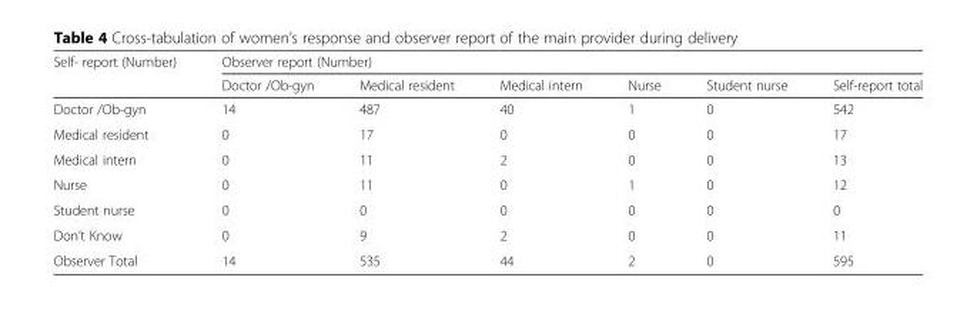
<table><thead><tr><td rowspan="2">Self- report (Number)</td><td colspan="6">Observer report (Number)</td></tr><tr><td>Doctor /Ob-gyn</td><td>Medical resident</td><td>Medical intern</td><td>Nurse</td><td>Student nurse</td><td>Self-report total</td></tr></thead><tbody><tr><td>Doctor /Ob-gyn</td><td>14</td><td>487</td><td>40</td><td>1</td><td>0</td><td>542</td></tr><tr><td>Medical resident</td><td>0</td><td>17</td><td>0</td><td>0</td><td>0</td><td>17</td></tr><tr><td>Medical intern</td><td>0</td><td>11</td><td>2</td><td>0</td><td>0</td><td>13</td></tr><tr><td>Nurse</td><td>0</td><td>11</td><td>0</td><td>1</td><td>0</td><td>12</td></tr><tr><td>Student nurse</td><td>0</td><td>0</td><td>0</td><td>0</td><td>0</td><td>0</td></tr><tr><td>Don’t Know</td><td>0</td><td>9</td><td>2</td><td>0</td><td>0</td><td>11</td></tr><tr><td>Observer Total</td><td>14</td><td>535</td><td>44</td><td>2</td><td>0</td><td>595</td></tr></tbody></table>